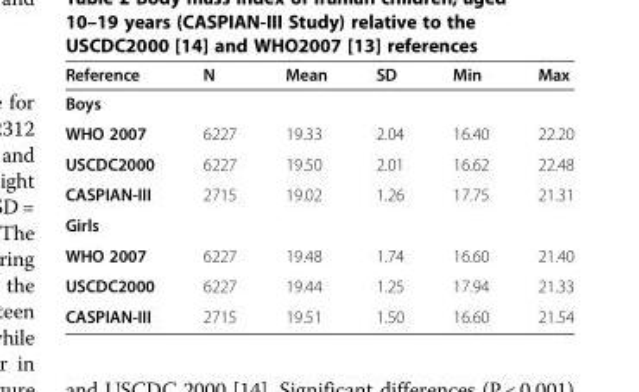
<table><thead><tr><td>Reference</td><td>N</td><td>Mean</td><td>SD</td><td>Min</td><td>Max</td></tr></thead><tbody><tr><td colspan="6">Boys</td></tr><tr><td>WHO 2007</td><td>6227</td><td>19.33</td><td>2.04</td><td>16.40</td><td>22.20</td></tr><tr><td>USCDC2000</td><td>6227</td><td>19.50</td><td>2.01</td><td>16.62</td><td>22.48</td></tr><tr><td>CASPIAN-III</td><td>2715</td><td>19.02</td><td>1.26</td><td>17.75</td><td>21.31</td></tr><tr><td colspan="6">Girls</td></tr><tr><td>WHO 2007</td><td>6227</td><td>19.48</td><td>1.74</td><td>16.60</td><td>21.40</td></tr><tr><td>USCDC2000</td><td>6227</td><td>19.44</td><td>1.25</td><td>17.94</td><td>21.33</td></tr><tr><td>CASPIAN-III</td><td>2715</td><td>19.51</td><td>1.50</td><td>16.60</td><td>21.54</td></tr></tbody></table>